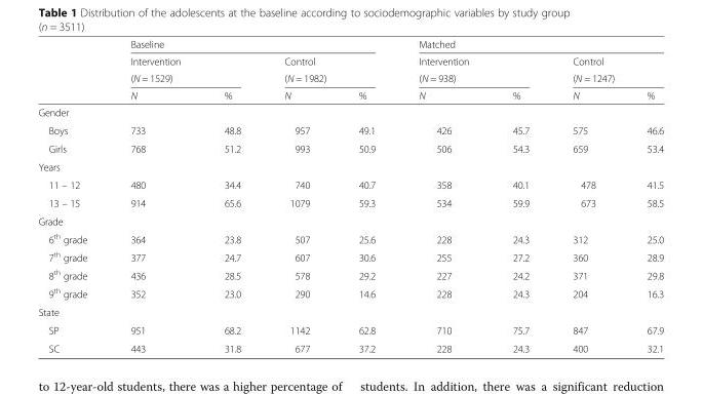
<table><thead><tr><td rowspan="4"></td><td colspan="4">Baseline</td><td colspan="4">Matched</td></tr><tr><td>Intervention</td><td></td><td>Control</td><td></td><td>Intervention</td><td></td><td>Control</td><td></td></tr><tr><td colspan="2">(N = 1529)</td><td colspan="2">(N = 1982)</td><td colspan="2">(N = 938)</td><td colspan="2">(N = 1247)</td></tr><tr><td>N</td><td>%</td><td>N</td><td>%</td><td>N</td><td>%</td><td>N</td><td>%</td></tr></thead><tbody><tr><td colspan="9">Gender</td></tr><tr><td>Boys</td><td>733</td><td>48.8</td><td>957</td><td>49.1</td><td>426</td><td>45.7</td><td>575</td><td>46.6</td></tr><tr><td>Girls</td><td>768</td><td>51.2</td><td>993</td><td>50.9</td><td>506</td><td>54.3</td><td>659</td><td>53.4</td></tr><tr><td colspan="9">Years</td></tr><tr><td>11 – 12</td><td>480</td><td>34.4</td><td>740</td><td>40.7</td><td>358</td><td>40.1</td><td>478</td><td>41.5</td></tr><tr><td>13 – 15</td><td>914</td><td>65.6</td><td>1079</td><td>59.3</td><td>534</td><td>59.9</td><td>673</td><td>58.5</td></tr><tr><td colspan="9">Grade</td></tr><tr><td>6<sup>th</sup> grade</td><td>364</td><td>23.8</td><td>507</td><td>25.6</td><td>228</td><td>24.3</td><td>312</td><td>25.0</td></tr><tr><td>7<sup>th</sup> grade</td><td>377</td><td>24.7</td><td>607</td><td>30.6</td><td>255</td><td>27.2</td><td>360</td><td>28.9</td></tr><tr><td>8<sup>th</sup> grade</td><td>436</td><td>28.5</td><td>578</td><td>29.2</td><td>227</td><td>24.2</td><td>371</td><td>29.8</td></tr><tr><td>9<sup>th</sup> grade</td><td>352</td><td>23.0</td><td>290</td><td>14.6</td><td>228</td><td>24.3</td><td>204</td><td>16.3</td></tr><tr><td colspan="9">State</td></tr><tr><td>SP</td><td>951</td><td>68.2</td><td>1142</td><td>62.8</td><td>710</td><td>75.7</td><td>847</td><td>67.9</td></tr><tr><td>SC</td><td>443</td><td>31.8</td><td>677</td><td>37.2</td><td>228</td><td>24.3</td><td>400</td><td>32.1</td></tr></tbody></table>